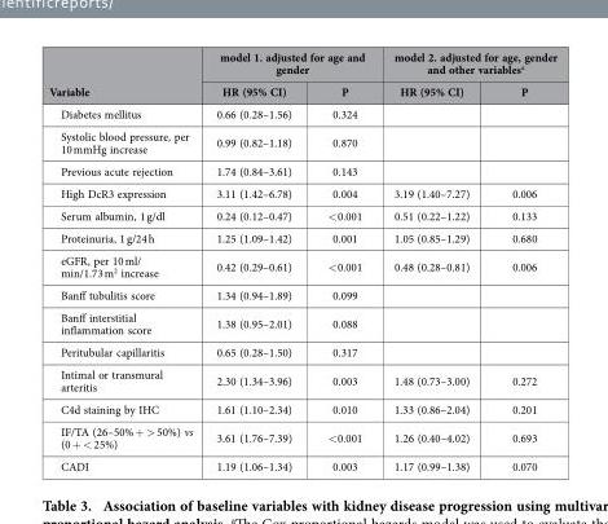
<table><thead><tr><td rowspan="2">Variable</td><td colspan="2">model 1. adjusted for age and gender</td><td colspan="2">model 2. adjusted for age, gender and other variables<sup>a</sup></td></tr><tr><td>HR (95% CI)</td><td>P</td><td>HR (95% CI)</td><td>P</td></tr></thead><tbody><tr><td>Diabetes mellitus</td><td>0.66 (0.28–1.56)</td><td>0.324</td><td></td><td></td></tr><tr><td>Systolic blood pressure, per 10 mmHg increase</td><td>0.99 (0.82–1.18)</td><td>0.870</td><td></td><td></td></tr><tr><td>Previous acute rejection</td><td>1.74 (0.84–3.61)</td><td>0.143</td><td></td><td></td></tr><tr><td>High DcR3 expression</td><td>3.11 (1.42–6.78)</td><td>0.004</td><td>3.19 (1.40–7.27)</td><td>0.006</td></tr><tr><td>Serum albumin, 1 g/dl</td><td>0.24 (0.12–0.47)</td><td>&lt; 0.001</td><td>0.51 (0.22–1.22)</td><td>0.133</td></tr><tr><td>Proteinuria, 1 g/24 h</td><td>1.25 (1.09–1.42)</td><td>0.001</td><td>1.05 (0.85–1.29)</td><td>0.680</td></tr><tr><td>eGFR, per 10 ml/ min/1.73 m<sup>2</sup> increase</td><td>0.42 (0.29–0.61)</td><td>&lt; 0.001</td><td>0.48 (0.28–0.81)</td><td>0.006</td></tr><tr><td>Banff tubulitis score</td><td>1.34 (0.94–1.89)</td><td>0.099</td><td></td><td></td></tr><tr><td>Banff interstitial inflammation score</td><td>1.38 (0.95–2.01)</td><td>0.088</td><td></td><td></td></tr><tr><td>Peritubular capillaritis</td><td>0.65 (0.28–1.50)</td><td>0.317</td><td></td><td></td></tr><tr><td>Intimal or transmural arteritis</td><td>2.30 (1.34–3.96)</td><td>0.003</td><td>1.48 (0.73–3.00)</td><td>0.272</td></tr><tr><td>C4d staining by IHC</td><td>1.61 (1.10–2.34)</td><td>0.010</td><td>1.33 (0.86–2.04)</td><td>0.201</td></tr><tr><td>IF/TA (26–50% + &gt; 50%) vs (0 + &lt; 25%)</td><td>3.61 (1.76–7.39)</td><td>&lt; 0.001</td><td>1.26 (0.40–4.02)</td><td>0.693</td></tr><tr><td>CADI</td><td>1.19 (1.06–1.34)</td><td>0.003</td><td>1.17 (0.99–1.38)</td><td>0.070</td></tr></tbody></table>